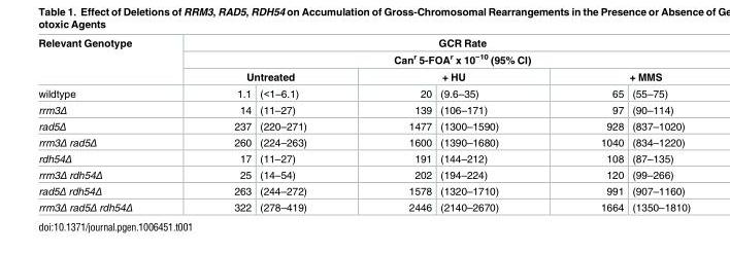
<table><thead><tr><td rowspan="4">Relevant Genotype wildtype</td><td rowspan="2" colspan="6">GCR Rate Can<sup>r</sup> 5-FOA<sup>r</sup> x 10<sup>−10</sup> (95% CI)</td></tr><tr></tr><tr><td colspan="2">Untreated</td><td colspan="2">+ HU</td><td colspan="2">+ MMS</td></tr><tr><td>1.1</td><td>(&lt;1–6.1)</td><td>20</td><td>(9.6–35)</td><td>65</td><td>(55–75)</td></tr></thead><tbody><tr><td>rrm3Δ</td><td>14</td><td>(11–27)</td><td>139</td><td>(106–171)</td><td>97</td><td>(90–114)</td></tr><tr><td>rad5Δ</td><td>237</td><td>(220–271)</td><td>1477</td><td>(1300–1590)</td><td>928</td><td>(837–1020)</td></tr><tr><td>rrm3Δ rad5Δ</td><td>260</td><td>(224–263)</td><td>1600</td><td>(1390–1680)</td><td>1040</td><td>(834–1220)</td></tr><tr><td>rdh54Δ</td><td>17</td><td>(11–27)</td><td>191</td><td>(144–212)</td><td>108</td><td>(87–135)</td></tr><tr><td>rrm3Δ rdh54Δ</td><td>25</td><td>(14–54)</td><td>202</td><td>(194–224)</td><td>120</td><td>(99–266)</td></tr><tr><td>rad5Δ rdh54Δ</td><td>263</td><td>(244–272)</td><td>1578</td><td>(1320–1710)</td><td>991</td><td>(907–1160)</td></tr><tr><td>rrm3Δ rad5Δ rdh54Δ</td><td>322</td><td>(278–419)</td><td>2446</td><td>(2140–2670)</td><td>1664</td><td>(1350–1810)</td></tr></tbody></table>